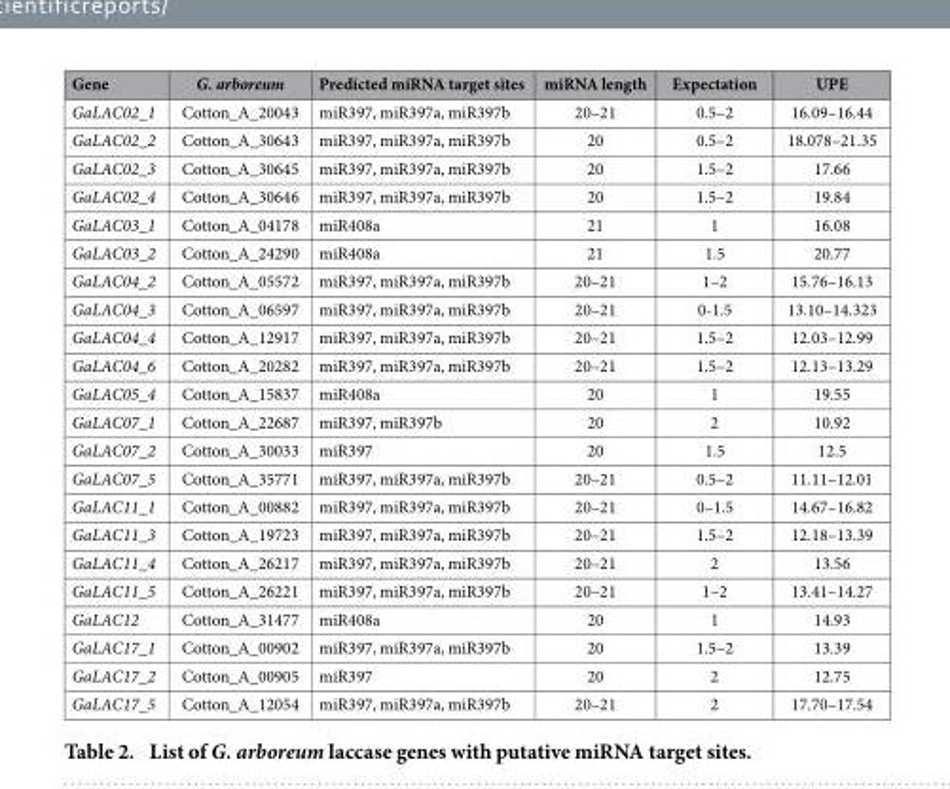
<table><thead><tr><td>Gene</td><td>G. arboreum</td><td>Predicted miRNA target sites</td><td>miRNA length</td><td>Expectation</td><td>UPE</td></tr></thead><tbody><tr><td>GaLAC02_1</td><td>Cotton_A_20043</td><td>miR397, miR397a, miR397b</td><td>20–21</td><td>0.5–2</td><td>16.09–16.44</td></tr><tr><td>GaLAC02_2</td><td>Cotton_A_30643</td><td>miR397, miR397a, miR397b</td><td>20</td><td>0.5–2</td><td>18.078–21.35</td></tr><tr><td>GaLAC02_3</td><td>Cotton_A_30645</td><td>miR397, miR397a, miR397b</td><td>20</td><td>1.5–2</td><td>17.66</td></tr><tr><td>GaLAC02_4</td><td>Cotton_A_30646</td><td>miR397, miR397a, miR397b</td><td>20</td><td>1.5–2</td><td>19.84</td></tr><tr><td>GaLAC03_1</td><td>Cotton_A_04178</td><td>miR408a</td><td>21</td><td>1</td><td>16.08</td></tr><tr><td>GaLAC03_2</td><td>Cotton_A_24290</td><td>miR408a</td><td>21</td><td>1.5</td><td>20.77</td></tr><tr><td>GaLAC04_2</td><td>Cotton_A_05572</td><td>miR397, miR397a, miR397b</td><td>20–21</td><td>1–2</td><td>15.76–16.13</td></tr><tr><td>GaLAC04_3</td><td>Cotton_A_06597</td><td>miR397, miR397a, miR397b</td><td>20–21</td><td>0-1.5</td><td>13.10–14.323</td></tr><tr><td>GaLAC04_4</td><td>Cotton_A_12917</td><td>miR397, miR397a, miR397b</td><td>20–21</td><td>1.5–2</td><td>12.03–12.99</td></tr><tr><td>GaLAC04_6</td><td>Cotton_A_20282</td><td>miR397, miR397a, miR397b</td><td>20–21</td><td>1.5–2</td><td>12.13–13.29</td></tr><tr><td>GaLAC05_4</td><td>Cotton_A_15837</td><td>miR408a</td><td>20</td><td>1</td><td>19.55</td></tr><tr><td>GaLAC07_1</td><td>Cotton_A_22687</td><td>miR397, miR397b</td><td>20</td><td>2</td><td>10.92</td></tr><tr><td>GaLAC07_2</td><td>Cotton_A_30033</td><td>miR397</td><td>20</td><td>1.5</td><td>12.5</td></tr><tr><td>GaLAC07_5</td><td>Cotton_A_35771</td><td>miR397, miR397a, miR397b</td><td>20–21</td><td>0.5–2</td><td>11.11–12.01</td></tr><tr><td>GaLAC11_1</td><td>Cotton_A_00882</td><td>miR397, miR397a, miR397b</td><td>20–21</td><td>0–1.5</td><td>14.67–16.82</td></tr><tr><td>GaLAC11_3</td><td>Cotton_A_19723</td><td>miR397, miR397a, miR397b</td><td>20–21</td><td>1.5–2</td><td>12.18–13.39</td></tr><tr><td>GaLAC11_4</td><td>Cotton_A_26217</td><td>miR397, miR397a, miR397b</td><td>20–21</td><td>2</td><td>13.56</td></tr><tr><td>GaLAC11_5</td><td>Cotton_A_26221</td><td>miR397, miR397a, miR397b</td><td>20–21</td><td>1–2</td><td>13.41–14.27</td></tr><tr><td>GaLAC12</td><td>Cotton_A_31477</td><td>miR408a</td><td>20</td><td>1</td><td>14.93</td></tr><tr><td>GaLAC17_1</td><td>Cotton_A_00902</td><td>miR397, miR397a, miR397b</td><td>20</td><td>1.5–2</td><td>13.39</td></tr><tr><td>GaLAC17_2</td><td>Cotton_A_00905</td><td>miR397</td><td>20</td><td>2</td><td>12.75</td></tr><tr><td>GaLAC17_5</td><td>Cotton_A_12054</td><td>miR397, miR397a, miR397b</td><td>20–21</td><td>2</td><td>17.70–17.54</td></tr></tbody></table>